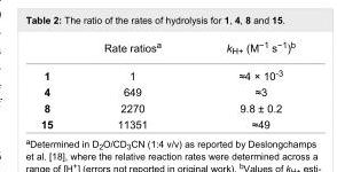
<table><thead><tr><td></td><td>Rate ratios<sup>a</sup></td><td>k<sub>H+</sub> (M<sup>−1</sup> s<sup>−1</sup>)<sup>b</sup></td></tr></thead><tbody><tr><td>1</td><td>1</td><td>≈4 × 10<sup>-3</sup></td></tr><tr><td>4</td><td>649</td><td>≈3</td></tr><tr><td>8</td><td>2270</td><td>9.8 ± 0.2</td></tr><tr><td>15</td><td>11351</td><td>≈49</td></tr></tbody></table>